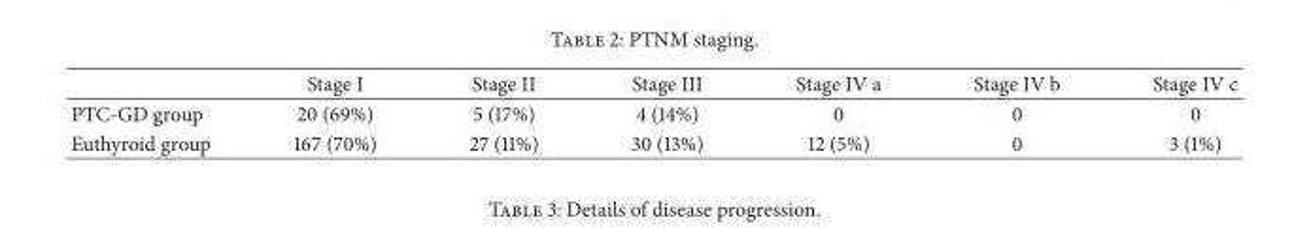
<table><thead><tr><td></td><td>Stage I</td><td>Stage II</td><td>Stage III</td><td>Stage IV a</td><td>Stage IV b</td><td>Stage IV c</td></tr></thead><tbody><tr><td>PTC-GD group</td><td>20 (69%)</td><td>5 (17%)</td><td>4 (14%)</td><td>0</td><td>0</td><td>0</td></tr><tr><td>Euthyroid group</td><td>167 (70%)</td><td>27 (11%)</td><td>30 (13%)</td><td>12 (5%)</td><td>0</td><td>3 (1%)</td></tr></tbody></table>